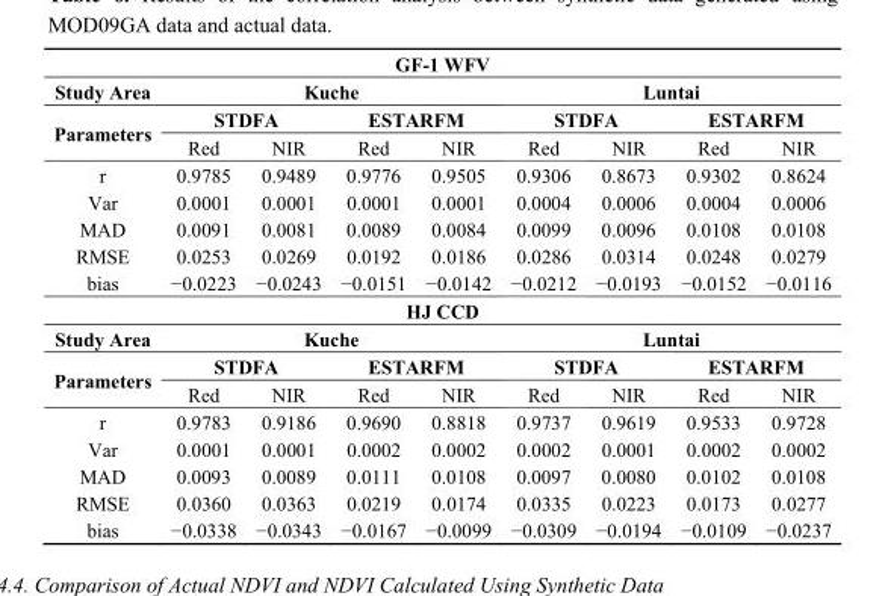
<table><thead><tr><td colspan="9">GF-1 WFV</td></tr><tr><td rowspan="3">Study Area Parameters</td><td colspan="4">Kuche</td><td colspan="4">Luntai</td></tr><tr><td colspan="2">STDFA</td><td colspan="2">ESTARFM</td><td colspan="2">STDFA</td><td colspan="2">ESTARFM</td></tr><tr><td>Red</td><td>NIR</td><td>Red</td><td>NIR</td><td>Red</td><td>NIR</td><td>Red</td><td>NIR</td></tr></thead><tbody><tr><td>r</td><td>0.9785</td><td>0.9489</td><td>0.9776</td><td>0.9505</td><td>0.9306</td><td>0.8673</td><td>0.9302</td><td>0.8624</td></tr><tr><td>Var</td><td>0.0001</td><td>0.0001</td><td>0.0001</td><td>0.0001</td><td>0.0004</td><td>0.0006</td><td>0.0004</td><td>0.0006</td></tr><tr><td>MAD</td><td>0.0091</td><td>0.0081</td><td>0.0089</td><td>0.0084</td><td>0.0099</td><td>0.0096</td><td>0.0108</td><td>0.0108</td></tr><tr><td>RMSE</td><td>0.0253</td><td>0.0269</td><td>0.0192</td><td>0.0186</td><td>0.0286</td><td>0.0314</td><td>0.0248</td><td>0.0279</td></tr><tr><td>bias</td><td>−0.0223</td><td>−0.0243</td><td>−0.0151</td><td>−0.0142</td><td>−0.0212</td><td>−0.0193</td><td>−0.0152</td><td>−0.0116</td></tr><tr><td colspan="9">HJ CCD</td></tr><tr><td>Study Area</td><td colspan="4">Kuche</td><td colspan="4">Luntai</td></tr><tr><td rowspan="2">Parameters</td><td colspan="2">STDFA</td><td colspan="2">ESTARFM</td><td colspan="2">STDFA</td><td colspan="2">ESTARFM</td></tr><tr><td>Red</td><td>NIR</td><td>Red</td><td>NIR</td><td>Red</td><td>NIR</td><td>Red</td><td>NIR</td></tr><tr><td>r</td><td>0.9783</td><td>0.9186</td><td>0.9690</td><td>0.8818</td><td>0.9737</td><td>0.9619</td><td>0.9533</td><td>0.9728</td></tr><tr><td>Var</td><td>0.0001</td><td>0.0001</td><td>0.0002</td><td>0.0002</td><td>0.0002</td><td>0.0001</td><td>0.0002</td><td>0.0002</td></tr><tr><td>MAD</td><td>0.0093</td><td>0.0089</td><td>0.0111</td><td>0.0108</td><td>0.0097</td><td>0.0080</td><td>0.0102</td><td>0.0108</td></tr><tr><td>RMSE</td><td>0.0360</td><td>0.0363</td><td>0.0219</td><td>0.0174</td><td>0.0335</td><td>0.0223</td><td>0.0173</td><td>0.0277</td></tr><tr><td>bias</td><td>−0.0338</td><td>−0.0343</td><td>−0.0167</td><td>−0.0099</td><td>−0.0309</td><td>−0.0194</td><td>−0.0109</td><td>−0.0237</td></tr></tbody></table>